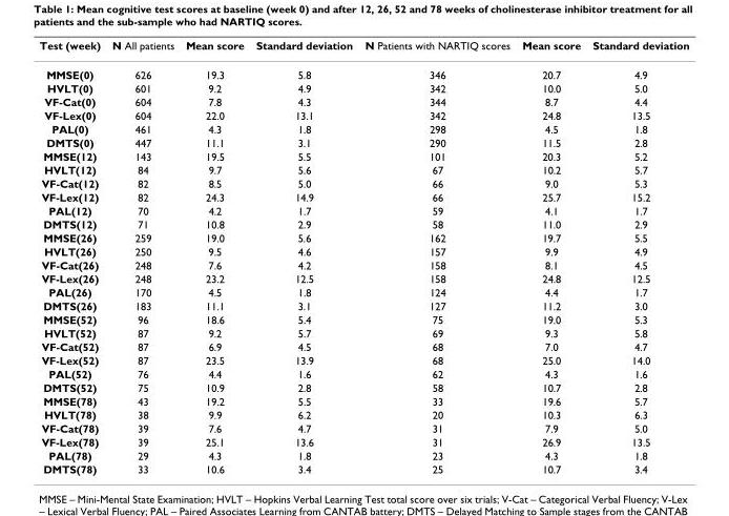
<table><thead><tr><td>Test (week)</td><td>N All patients</td><td>Mean score</td><td>Standard deviation</td><td>N Patients with NARTIQ scores</td><td>Mean score</td><td>Standard deviation</td></tr></thead><tbody><tr><td>MMSE(0)</td><td>626</td><td>19.3</td><td>5.8</td><td>346</td><td>20.7</td><td>4.9</td></tr><tr><td>HVLT(0)</td><td>601</td><td>9.2</td><td>4.9</td><td>342</td><td>10.0</td><td>5.0</td></tr><tr><td>VF-Cat(0)</td><td>604</td><td>7.8</td><td>4.3</td><td>344</td><td>8.7</td><td>4.4</td></tr><tr><td>VF-Lex(0)</td><td>604</td><td>22.0</td><td>13.1</td><td>342</td><td>24.8</td><td>13.5</td></tr><tr><td>PAL(0)</td><td>461</td><td>4.3</td><td>1.8</td><td>298</td><td>4.5</td><td>1.8</td></tr><tr><td>DMTS(0)</td><td>447</td><td>11.1</td><td>3.1</td><td>290</td><td>11.5</td><td>2.8</td></tr><tr><td>MMSE(12)</td><td>143</td><td>19.5</td><td>5.5</td><td>101</td><td>20.3</td><td>5.2</td></tr><tr><td>HVLT(12)</td><td>84</td><td>9.7</td><td>5.6</td><td>67</td><td>10.2</td><td>5.7</td></tr><tr><td>VF-Cat(12)</td><td>82</td><td>8.5</td><td>5.0</td><td>66</td><td>9.0</td><td>5.3</td></tr><tr><td>VF-Lex(12)</td><td>82</td><td>24.3</td><td>14.9</td><td>66</td><td>25.7</td><td>15.2</td></tr><tr><td>PAL(12)</td><td>70</td><td>4.2</td><td>1.7</td><td>59</td><td>4.1</td><td>1.7</td></tr><tr><td>DMTS(12)</td><td>71</td><td>10.8</td><td>2.9</td><td>58</td><td>11.0</td><td>2.9</td></tr><tr><td>MMSE(26)</td><td>259</td><td>19.0</td><td>5.6</td><td>162</td><td>19.7</td><td>5.5</td></tr><tr><td>HVLT(26)</td><td>250</td><td>9.5</td><td>4.6</td><td>157</td><td>9.9</td><td>4.9</td></tr><tr><td>VF-Cat(26)</td><td>248</td><td>7.6</td><td>4.2</td><td>158</td><td>8.1</td><td>4.5</td></tr><tr><td>VF-Lex(26)</td><td>248</td><td>23.2</td><td>12.5</td><td>158</td><td>24.8</td><td>12.5</td></tr><tr><td>PAL(26)</td><td>170</td><td>4.5</td><td>1.8</td><td>124</td><td>4.4</td><td>1.7</td></tr><tr><td>DMTS(26)</td><td>183</td><td>11.1</td><td>3.1</td><td>127</td><td>11.2</td><td>3.0</td></tr><tr><td>MMSE(52)</td><td>96</td><td>18.6</td><td>5.4</td><td>75</td><td>19.0</td><td>5.3</td></tr><tr><td>HVLT(52)</td><td>87</td><td>9.2</td><td>5.7</td><td>69</td><td>9.3</td><td>5.8</td></tr><tr><td>VF-Cat(52)</td><td>87</td><td>6.9</td><td>4.5</td><td>68</td><td>7.0</td><td>4.7</td></tr><tr><td>VF-Lex(52)</td><td>87</td><td>23.5</td><td>13.9</td><td>68</td><td>25.0</td><td>14.0</td></tr><tr><td>PAL(52)</td><td>76</td><td>4.4</td><td>1.6</td><td>62</td><td>4.3</td><td>1.6</td></tr><tr><td>DMTS(52)</td><td>75</td><td>10.9</td><td>2.8</td><td>58</td><td>10.7</td><td>2.8</td></tr><tr><td>MMSE(78)</td><td>43</td><td>19.2</td><td>5.5</td><td>33</td><td>19.6</td><td>5.7</td></tr><tr><td>HVLT(78)</td><td>38</td><td>9.9</td><td>6.2</td><td>20</td><td>10.3</td><td>6.3</td></tr><tr><td>VF-Cat(78)</td><td>39</td><td>7.6</td><td>4.7</td><td>31</td><td>7.9</td><td>5.0</td></tr><tr><td>VF-Lex(78)</td><td>39</td><td>25.1</td><td>13.6</td><td>31</td><td>26.9</td><td>13.5</td></tr><tr><td>PAL(78)</td><td>29</td><td>4.3</td><td>1.8</td><td>23</td><td>4.3</td><td>1.8</td></tr><tr><td>DMTS(78)</td><td>33</td><td>10.6</td><td>3.4</td><td>25</td><td>10.7</td><td>3.4</td></tr></tbody></table>